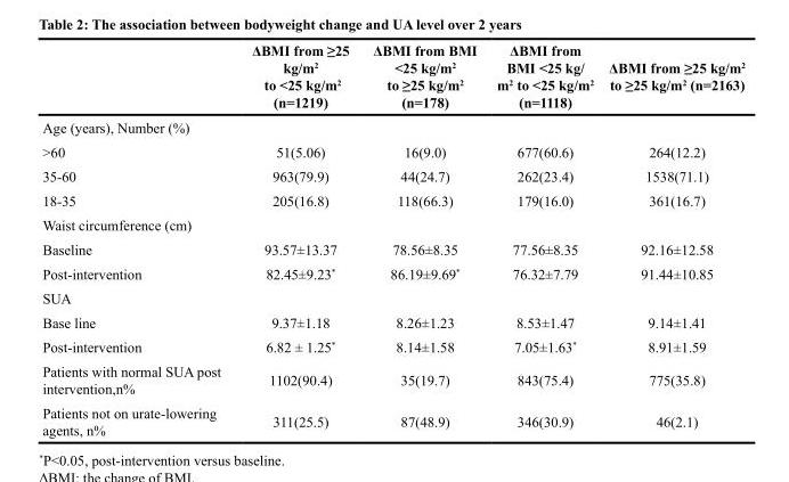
<table><thead><tr><td></td><td>ΔBMI from ≥25 kg/m<sup>2</sup> to &lt;25 kg/m<sup>2</sup> (n=1219)</td><td>ΔBMI from BMI &lt;25 kg/m<sup>2</sup> to ≥25 kg/m<sup>2</sup> (n=178)</td><td>ΔBMI from BMI &lt;25 kg/ m<sup>2</sup> to &lt;25 kg/m<sup>2</sup> (n=1118)</td><td>ΔBMI from ≥25 kg/m<sup>2</sup> to ≥25 kg/m<sup>2</sup> (n=2163)</td></tr></thead><tbody><tr><td colspan="5">Age (years), Number (%)</td></tr><tr><td>&gt;60</td><td>51(5.06)</td><td>16(9.0)</td><td>677(60.6)</td><td>264(12.2)</td></tr><tr><td>35-60</td><td>963(79.9)</td><td>44(24.7)</td><td>262(23.4)</td><td>1538(71.1)</td></tr><tr><td>18-35</td><td>205(16.8)</td><td>118(66.3)</td><td>179(16.0)</td><td>361(16.7)</td></tr><tr><td colspan="5">Waist circumference (cm)</td></tr><tr><td>Baseline</td><td>93.57±13.37</td><td>78.56±8.35</td><td>77.56±8.35</td><td>92.16±12.58</td></tr><tr><td>Post-intervention</td><td>82.45±9.23*</td><td>86.19±9.69*</td><td>76.32±7.79</td><td>91.44±10.85</td></tr><tr><td colspan="5">SUA</td></tr><tr><td>Base line</td><td>9.37±1.18</td><td>8.26±1.23</td><td>8.53±1.47</td><td>9.14±1.41</td></tr><tr><td>Post-intervention</td><td>6.82 ± 1.25*</td><td>8.14±1.58</td><td>7.05±1.63*</td><td>8.91±1.59</td></tr><tr><td>Patients with normal SUA post intervention,n%</td><td>1102(90.4)</td><td>35(19.7)</td><td>843(75.4)</td><td>775(35.8)</td></tr><tr><td>Patients not on urate-lowering agents, n%</td><td>311(25.5)</td><td>87(48.9)</td><td>346(30.9)</td><td>46(2.1)</td></tr></tbody></table>